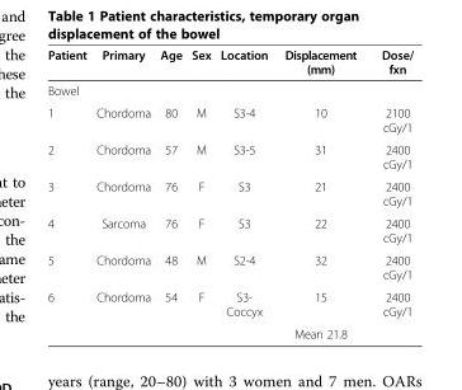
<table><thead><tr><td>Patient</td><td>Primary</td><td>Age</td><td>Sex</td><td>Location</td><td>Displacement (mm)</td><td>Dose/ fxn</td></tr></thead><tbody><tr><td colspan="7">Bowel</td></tr><tr><td>1</td><td>Chordoma</td><td>80</td><td>M</td><td>S3-4</td><td>10</td><td>2100 cGy/1</td></tr><tr><td>2</td><td>Chordoma</td><td>57</td><td>M</td><td>S3-5</td><td>31</td><td>2400 cGy/1</td></tr><tr><td>3</td><td>Chordoma</td><td>76</td><td>F</td><td>S3</td><td>21</td><td>2400 cGy/1</td></tr><tr><td>4</td><td>Sarcoma</td><td>76</td><td>F</td><td>S3</td><td>22</td><td>2400 cGy/1</td></tr><tr><td>5</td><td>Chordoma</td><td>48</td><td>M</td><td>S2-4</td><td>32</td><td>2400 cGy/1</td></tr><tr><td rowspan="2">6</td><td>Chordoma</td><td>54</td><td>F</td><td>S3- Coccyx</td><td>15</td><td>2400 cGy/1</td></tr><tr><td></td><td></td><td></td><td></td><td>Mean 21.8</td><td></td></tr></tbody></table>